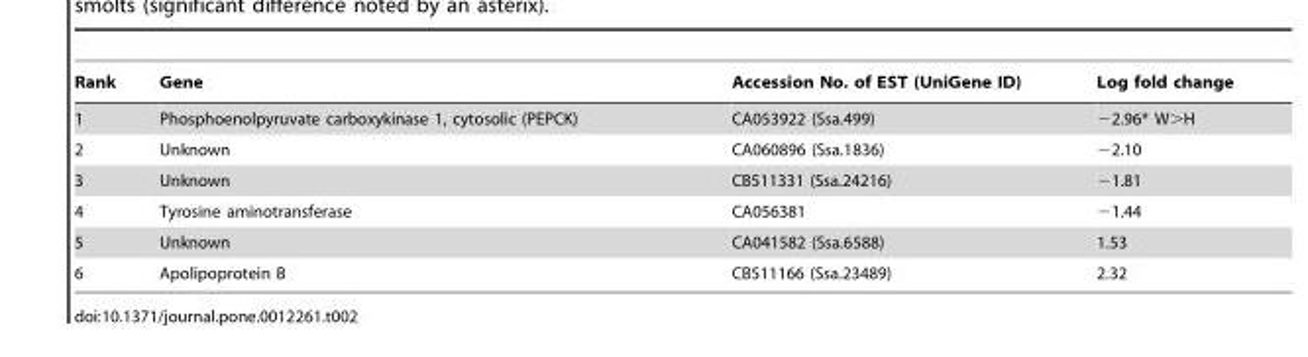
<table><thead><tr><td>Rank</td><td>Gene</td><td>Accession No. of EST (UniGene ID)</td><td>Log fold change</td></tr></thead><tbody><tr><td>1</td><td>Phosphoenolpyruvate carboxykinase 1, cytosolic (PEPCK)</td><td>CA053922 (Ssa.499)</td><td>−2.96* W&gt;H</td></tr><tr><td>2</td><td>Unknown</td><td>CA060896 (Ssa.1836)</td><td>−2.10</td></tr><tr><td>3</td><td>Unknown</td><td>CB511331 (Ssa.24216)</td><td>−1.81</td></tr><tr><td>4</td><td>Tyrosine aminotransferase</td><td>CA056381</td><td>−1.44</td></tr><tr><td>5</td><td>Unknown</td><td>CA041582 (Ssa.6588)</td><td>1.53</td></tr><tr><td>6</td><td>Apolipoprotein B</td><td>CB511166 (Ssa.23489)</td><td>2.32</td></tr></tbody></table>